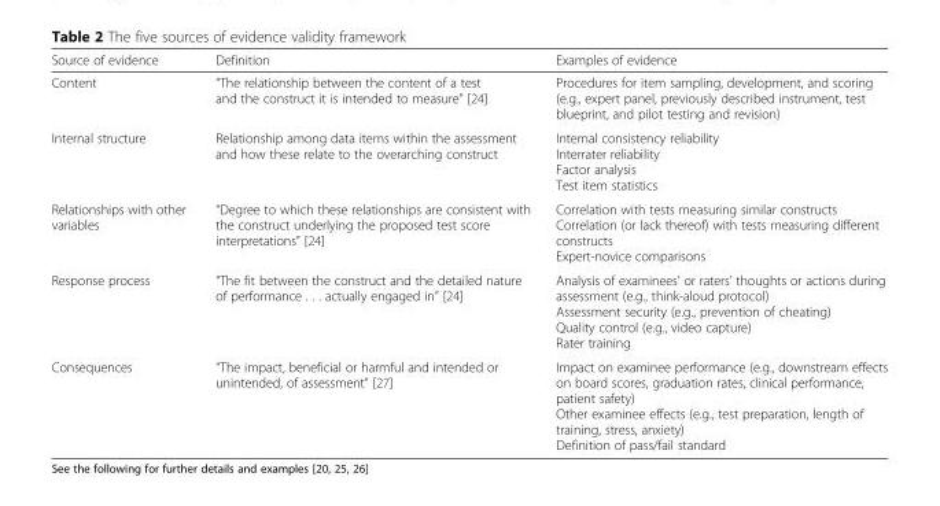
<table><thead><tr><td>Source of evidence</td><td>Definition</td><td>Examples of evidence</td></tr></thead><tbody><tr><td>Content</td><td>“The relationship between the content of a test and the construct it is intended to measure” [24]</td><td>Procedures for item sampling, development, and scoring (e.g., expert panel, previously described instrument, test blueprint, and pilot testing and revision)</td></tr><tr><td>Internal structure</td><td>Relationship among data items within the assessment and how these relate to the overarching construct</td><td>Internal consistency reliability Interrater reliability Factor analysis Test item statistics</td></tr><tr><td>Relationships with other variables</td><td>“Degree to which these relationships are consistent with the construct underlying the proposed test score interpretations” [24]</td><td>Correlation with tests measuring similar constructs Correlation (or lack thereof) with tests measuring different constructs Expert-novice comparisons</td></tr><tr><td>Response process</td><td>“The fit between the construct and the detailed nature of performance . . . actually engaged in” [24]</td><td>Analysis of examinees’ or raters’ thoughts or actions during assessment (e.g., think-aloud protocol) Assessment security (e.g., prevention of cheating) Quality control (e.g., video capture) Rater training</td></tr><tr><td>Consequences</td><td>“The impact, beneficial or harmful and intended or unintended, of assessment” [27]</td><td>Impact on examinee performance (e.g., downstream effects on board scores, graduation rates, clinical performance, patient safety) Other examinee effects (e.g., test preparation, length of training, stress, anxiety) Definition of pass/fail standard</td></tr></tbody></table>